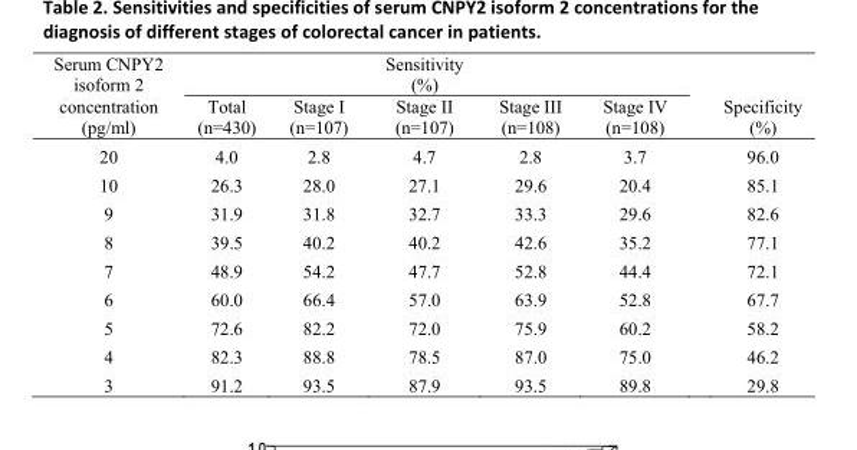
<table><tbody><tr><td>Serum CNPY2 isoform 2</td><td></td><td></td><td>Sensitivity (%)</td><td></td><td></td><td rowspan="2">Specificity (%)</td></tr><tr><td>concentration (pg/ml)</td><td>Total (n=430)</td><td>Stage I (n=107)</td><td>Stage II (n=107)</td><td>Stage III (n=108)</td><td>Stage IV (n=108)</td></tr><tr><td>20</td><td>4.0</td><td>2.8</td><td>4.7</td><td>2.8</td><td>3.7</td><td>96.0</td></tr><tr><td>10</td><td>26.3</td><td>28.0</td><td>27.1</td><td>29.6</td><td>20.4</td><td>85.1</td></tr><tr><td>9</td><td>31.9</td><td>31.8</td><td>32.7</td><td>33.3</td><td>29.6</td><td>82.6</td></tr><tr><td>8</td><td>39.5</td><td>40.2</td><td>40.2</td><td>42.6</td><td>35.2</td><td>77.1</td></tr><tr><td>7</td><td>48.9</td><td>54.2</td><td>47.7</td><td>52.8</td><td>44.4</td><td>72.1</td></tr><tr><td>6</td><td>60.0</td><td>66.4</td><td>57.0</td><td>63.9</td><td>52.8</td><td>67.7</td></tr><tr><td>5</td><td>72.6</td><td>82.2</td><td>72.0</td><td>75.9</td><td>60.2</td><td>58.2</td></tr><tr><td>4</td><td>82.3</td><td>88.8</td><td>78.5</td><td>87.0</td><td>75.0</td><td>46.2</td></tr><tr><td>3</td><td>91.2</td><td>93.5</td><td>87.9</td><td>93.5</td><td>89.8</td><td>29.8</td></tr></tbody></table>